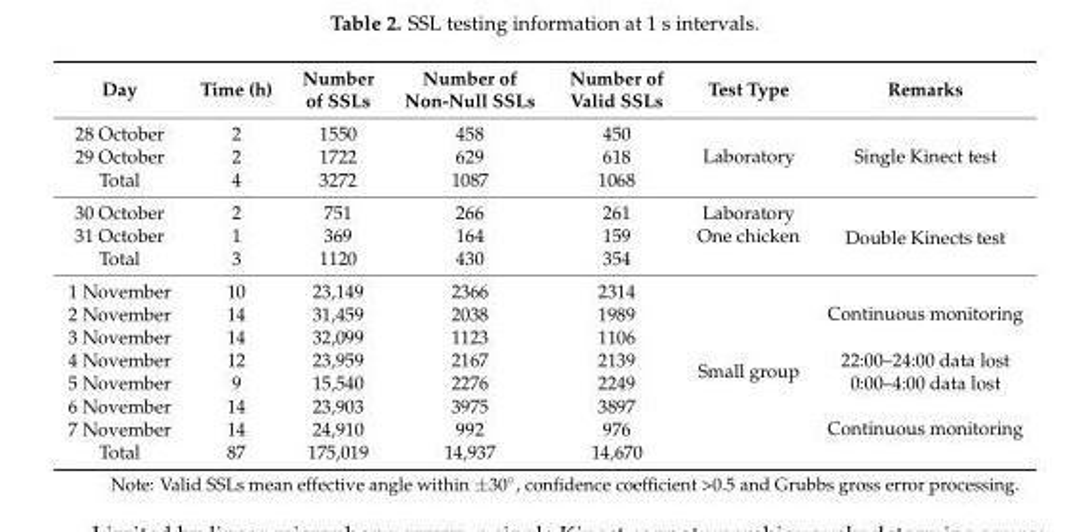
<table><thead><tr><td>Day</td><td>Time (h)</td><td>Number of SSLs</td><td>Number of Non-Null SSLs</td><td>Number of Valid SSLs</td><td>Test Type</td><td>Remarks</td></tr></thead><tbody><tr><td>28 October</td><td>2</td><td>1550</td><td>458</td><td>450</td><td rowspan="3">Laboratory</td><td rowspan="3">Single Kinect test</td></tr><tr><td>29 October</td><td>2</td><td>1722</td><td>629</td><td>618</td></tr><tr><td>Total</td><td>4</td><td>3272</td><td>1087</td><td>1068</td></tr><tr><td>30 October</td><td>2</td><td>751</td><td>266</td><td>261</td><td>Laboratory</td><td rowspan="3">Double Kinects test</td></tr><tr><td>31 October</td><td>1</td><td>369</td><td>164</td><td>159</td><td>One chicken</td></tr><tr><td>Total</td><td>3</td><td>1120</td><td>430</td><td>354</td><td></td></tr><tr><td>1 November</td><td>10</td><td>23,149</td><td>2366</td><td>2314</td><td rowspan="8">Small group</td><td rowspan="3">Continuous monitoring</td></tr><tr><td>2 November</td><td>14</td><td>31,459</td><td>2038</td><td>1989</td></tr><tr><td>3 November</td><td>14</td><td>32,099</td><td>1123</td><td>1106</td></tr><tr><td>4 November</td><td>12</td><td>23,959</td><td>2167</td><td>2139</td><td>22:00–24:00 data lost</td></tr><tr><td>5 November</td><td>9</td><td>15,540</td><td>2276</td><td>2249</td><td>0:00–4:00 data lost</td></tr><tr><td>6 November</td><td>14</td><td>23,903</td><td>3975</td><td>3897</td><td rowspan="3">Continuous monitoring</td></tr><tr><td>7 November</td><td>14</td><td>24,910</td><td>992</td><td>976</td></tr><tr><td>Total</td><td>87</td><td>175,019</td><td>14,937</td><td>14,670</td></tr></tbody></table>